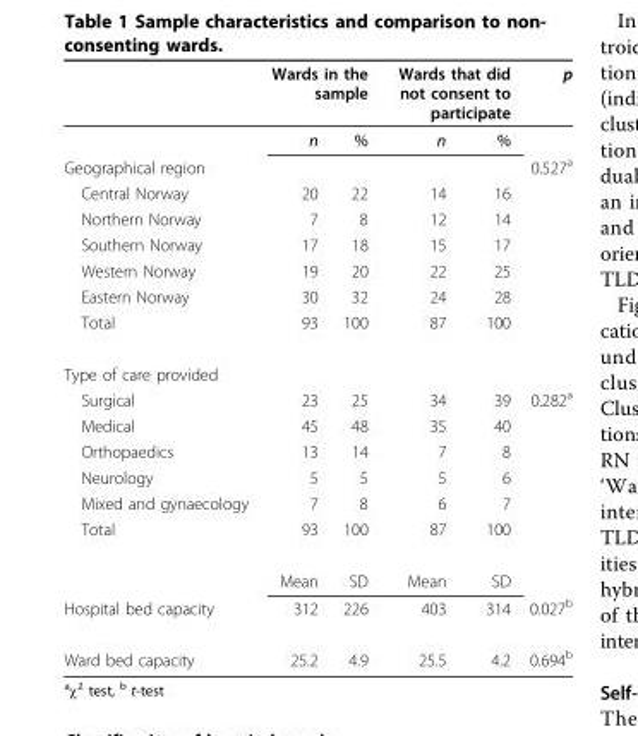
<table><thead><tr><td rowspan="2"></td><td colspan="2">Wards in the sample</td><td colspan="2">Wards that did not consent to participate</td><td rowspan="2">p</td></tr><tr><td>n</td><td>%</td><td>n</td><td>%</td></tr></thead><tbody><tr><td>Geographical region</td><td></td><td></td><td></td><td></td><td>0.527<sup>a</sup></td></tr><tr><td>Central Norway</td><td>20</td><td>22</td><td>14</td><td>16</td><td></td></tr><tr><td>Northern Norway</td><td>7</td><td>8</td><td>12</td><td>14</td><td></td></tr><tr><td>Southern Norway</td><td>17</td><td>18</td><td>15</td><td>17</td><td></td></tr><tr><td>Western Norway</td><td>19</td><td>20</td><td>22</td><td>25</td><td></td></tr><tr><td>Eastern Norway</td><td>30</td><td>32</td><td>24</td><td>28</td><td></td></tr><tr><td>Total</td><td>93</td><td>100</td><td>87</td><td>100</td><td></td></tr><tr><td colspan="6">Type of care provided</td></tr><tr><td>Surgical</td><td>23</td><td>25</td><td>34</td><td>39</td><td>0.282<sup>a</sup></td></tr><tr><td>Medical</td><td>45</td><td>48</td><td>35</td><td>40</td><td></td></tr><tr><td>Orthopaedics</td><td>13</td><td>14</td><td>7</td><td>8</td><td></td></tr><tr><td>Neurology</td><td>5</td><td>5</td><td>5</td><td>6</td><td></td></tr><tr><td>Mixed and gynaecology</td><td>7</td><td>8</td><td>6</td><td>7</td><td></td></tr><tr><td rowspan="2">Total</td><td>93</td><td>100</td><td>87</td><td>100</td><td></td></tr><tr><td>Mean</td><td>SD</td><td>Mean</td><td>SD</td><td></td></tr><tr><td>Hospital bed capacity</td><td>312</td><td>226</td><td>403</td><td>314</td><td>0.027<sup>b</sup></td></tr><tr><td>Ward bed capacity</td><td>25.2</td><td>4.9</td><td>25.5</td><td>4.2</td><td>0.694<sup>b</sup></td></tr></tbody></table>